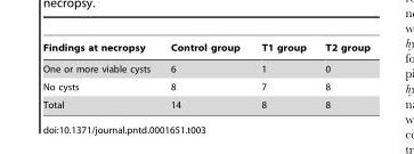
<table><thead><tr><td>Findings at necropsy</td><td>Control group</td><td>T1 group</td><td>T2 group</td></tr></thead><tbody><tr><td>One or more viable cysts</td><td>6</td><td>1</td><td>0</td></tr><tr><td>No cysts</td><td>8</td><td>7</td><td>8</td></tr><tr><td>Total</td><td>14</td><td>8</td><td>8</td></tr></tbody></table>